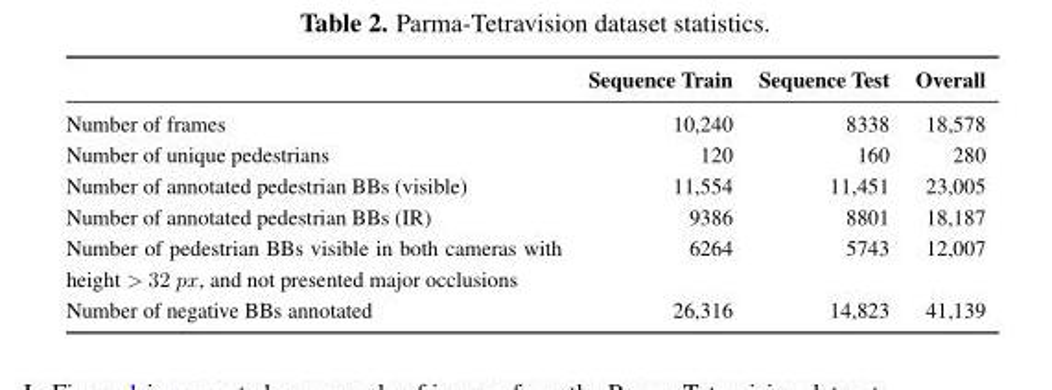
<table><thead><tr><td></td><td>Sequence Train</td><td>Sequence Test</td><td>Overall</td></tr></thead><tbody><tr><td>Number of frames</td><td>10,240</td><td>8338</td><td>18,578</td></tr><tr><td>Number of unique pedestrians</td><td>120</td><td>160</td><td>280</td></tr><tr><td>Number of annotated pedestrian BBs (visible)</td><td>11,554</td><td>11,451</td><td>23,005</td></tr><tr><td>Number of annotated pedestrian BBs (IR)</td><td>9386</td><td>8801</td><td>18,187</td></tr><tr><td>Number of pedestrian BBs visible in both cameras with height &gt; 32 px, and not presented major occlusions</td><td>6264</td><td>5743</td><td>12,007</td></tr><tr><td>Number of negative BBs annotated</td><td>26,316</td><td>14,823</td><td>41,139</td></tr></tbody></table>